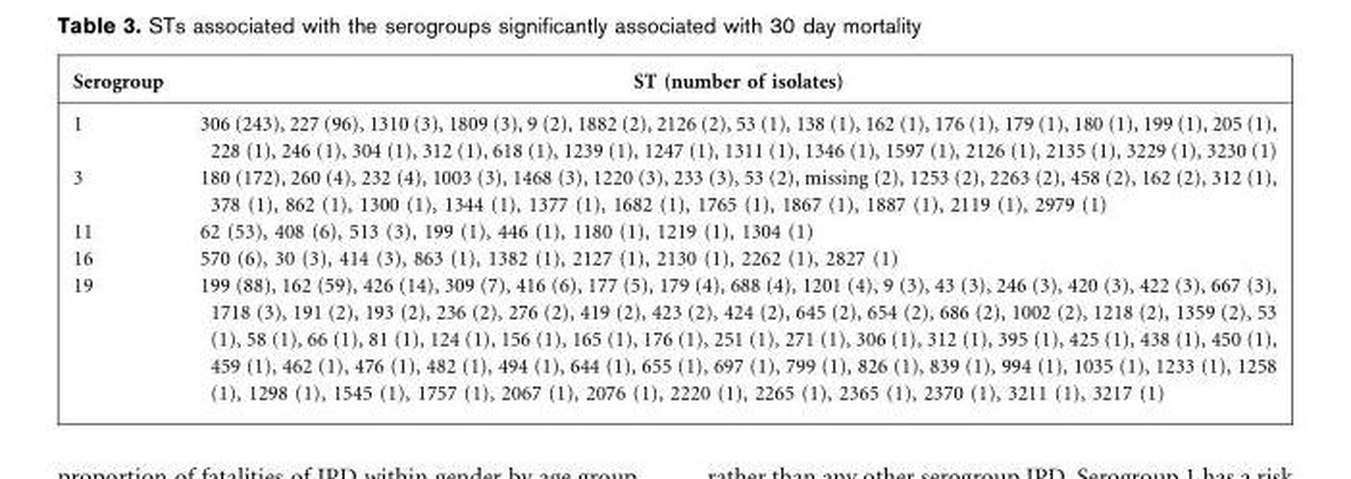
<table><thead><tr><td>Serogroup</td><td>ST (number of isolates)</td></tr></thead><tbody><tr><td>1</td><td>306 (243), 227 (96), 1310 (3), 1809 (3), 9 (2), 1882 (2), 2126 (2), 53 (1), 138 (1), 162 (1), 176 (1), 179 (1), 180 (1), 199 (1), 205 (1), 228 (1), 246 (1), 304 (1), 312 (1), 618 (1), 1239 (1), 1247 (1), 1311 (1), 1346 (1), 1597 (1), 2126 (1), 2135 (1), 3229 (1), 3230 (1)</td></tr><tr><td>3</td><td>180 (172), 260 (4), 232 (4), 1003 (3), 1468 (3), 1220 (3), 233 (3), 53 (2), missing (2), 1253 (2), 2263 (2), 458 (2), 162 (2), 312 (1), 378 (1), 862 (1), 1300 (1), 1344 (1), 1377 (1), 1682 (1), 1765 (1), 1867 (1), 1887 (1), 2119 (1), 2979 (1)</td></tr><tr><td>11</td><td>62 (53), 408 (6), 513 (3), 199 (1), 446 (1), 1180 (1), 1219 (1), 1304 (1)</td></tr><tr><td>16</td><td>570 (6), 30 (3), 414 (3), 863 (1), 1382 (1), 2127 (1), 2130 (1), 2262 (1), 2827 (1)</td></tr><tr><td>19</td><td>199 (88), 162 (59), 426 (14), 309 (7), 416 (6), 177 (5), 179 (4), 688 (4), 1201 (4), 9 (3), 43 (3), 246 (3), 420 (3), 422 (3), 667 (3), 1718 (3), 191 (2), 193 (2), 236 (2), 276 (2), 419 (2), 423 (2), 424 (2), 645 (2), 654 (2), 686 (2), 1002 (2), 1218 (2), 1359 (2), 53 (1), 58 (1), 66 (1), 81 (1), 124 (1), 156 (1), 165 (1), 176 (1), 251 (1), 271 (1), 306 (1), 312 (1), 395 (1), 425 (1), 438 (1), 450 (1), 459 (1), 462 (1), 476 (1), 482 (1), 494 (1), 644 (1), 655 (1), 697 (1), 799 (1), 826 (1), 839 (1), 994 (1), 1035 (1), 1233 (1), 1258 (1), 1298 (1), 1545 (1), 1757 (1), 2067 (1), 2076 (1), 2220 (1), 2265 (1), 2365 (1), 2370 (1), 3211 (1), 3217 (1)</td></tr></tbody></table>